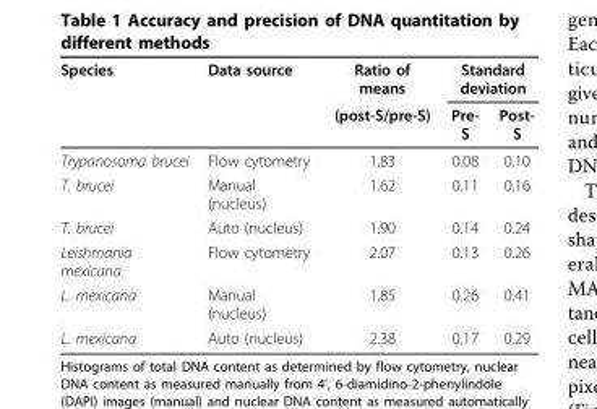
<table><thead><tr><td rowspan="2">Species</td><td rowspan="2">Data source</td><td rowspan="2">Ratio of means (post-S/pre-S)</td><td colspan="2">Standard deviation</td></tr><tr><td>Pre- S</td><td>Post- S</td></tr></thead><tbody><tr><td>Trypanosoma brucei</td><td>Flow cytometry</td><td>1.83</td><td>0.08</td><td>0.10</td></tr><tr><td>T. brucei</td><td>Manual (nucleus)</td><td>1.62</td><td>0.11</td><td>0.16</td></tr><tr><td>T. brucei</td><td>Auto (nucleus)</td><td>1.90</td><td>0.14</td><td>0.24</td></tr><tr><td>Leishmania mexicana</td><td>Flow cytometry</td><td>2.07</td><td>0.13</td><td>0.26</td></tr><tr><td>L. mexicana</td><td>Manual (nucleus)</td><td>1.85</td><td>0.26</td><td>0.41</td></tr><tr><td>L. mexicana</td><td>Auto (nucleus)</td><td>2.38</td><td>0.17</td><td>0.29</td></tr></tbody></table>